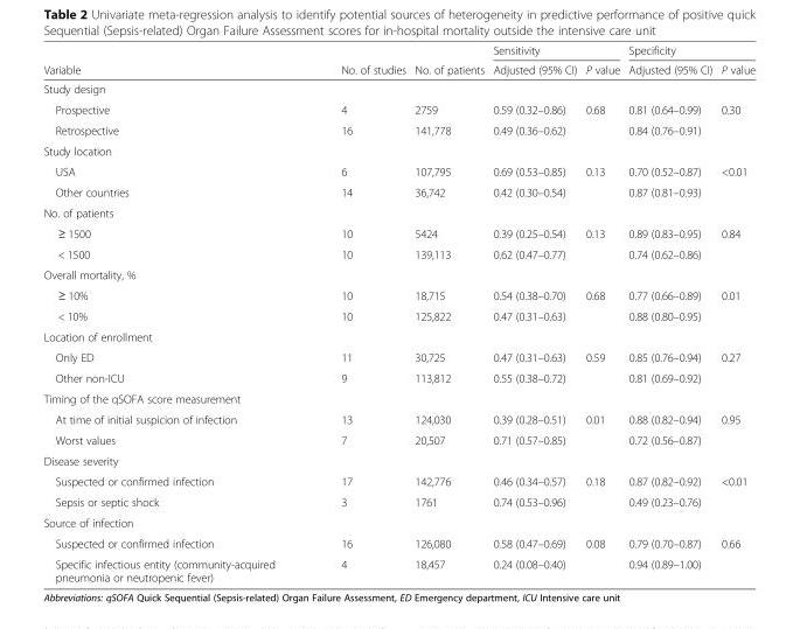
<table><thead><tr><td rowspan="2">Variable</td><td rowspan="2">No. of studies</td><td rowspan="2">No. of patients</td><td colspan="2">Sensitivity</td><td colspan="2">Specificity</td></tr><tr><td>Adjusted (95% CI)</td><td>P value</td><td>Adjusted (95% CI)</td><td>P value</td></tr></thead><tbody><tr><td colspan="7">Study design</td></tr><tr><td>Prospective</td><td>4</td><td>2759</td><td>0.59 (0.32–0.86)</td><td rowspan="2">0.68</td><td>0.81 (0.64–0.99)</td><td rowspan="2">0.30</td></tr><tr><td>Retrospective</td><td>16</td><td>141,778</td><td>0.49 (0.36–0.62)</td><td>0.84 (0.76–0.91)</td></tr><tr><td colspan="7">Study location</td></tr><tr><td>USA</td><td>6</td><td>107,795</td><td>0.69 (0.53–0.85)</td><td rowspan="2">0.13</td><td>0.70 (0.52–0.87)</td><td rowspan="2">&lt;0.01</td></tr><tr><td>Other countries</td><td>14</td><td>36,742</td><td>0.42 (0.30–0.54)</td><td>0.87 (0.81–0.93)</td></tr><tr><td colspan="7">No. of patients</td></tr><tr><td>≥ 1500</td><td>10</td><td>5424</td><td>0.39 (0.25–0.54)</td><td rowspan="2">0.13</td><td>0.89 (0.83–0.95)</td><td rowspan="2">0.84</td></tr><tr><td>&lt; 1500</td><td>10</td><td>139,113</td><td>0.62 (0.47–0.77)</td><td>0.74 (0.62–0.86)</td></tr><tr><td colspan="7">Overall mortality, %</td></tr><tr><td>≥ 10%</td><td>10</td><td>18,715</td><td>0.54 (0.38–0.70)</td><td rowspan="2">0.68</td><td>0.77 (0.66–0.89)</td><td rowspan="2">0.01</td></tr><tr><td>&lt; 10%</td><td>10</td><td>125,822</td><td>0.47 (0.31–0.63)</td><td>0.88 (0.80–0.95)</td></tr><tr><td colspan="7">Location of enrollment</td></tr><tr><td>Only ED</td><td>11</td><td>30,725</td><td>0.47 (0.31–0.63)</td><td rowspan="2">0.59</td><td>0.85 (0.76–0.94)</td><td rowspan="2">0.27</td></tr><tr><td>Other non-ICU</td><td>9</td><td>113,812</td><td>0.55 (0.38–0.72)</td><td>0.81 (0.69–0.92)</td></tr><tr><td colspan="7">Timing of the qSOFA score measurement</td></tr><tr><td>At time of initial suspicion of infection</td><td>13</td><td>124,030</td><td>0.39 (0.28–0.51)</td><td rowspan="2">0.01</td><td>0.88 (0.82–0.94)</td><td rowspan="2">0.95</td></tr><tr><td>Worst values</td><td>7</td><td>20,507</td><td>0.71 (0.57–0.85)</td><td>0.72 (0.56–0.87)</td></tr><tr><td colspan="7">Disease severity</td></tr><tr><td>Suspected or confirmed infection</td><td>17</td><td>142,776</td><td>0.46 (0.34–0.57)</td><td rowspan="2">0.18</td><td>0.87 (0.82–0.92)</td><td rowspan="2">&lt;0.01</td></tr><tr><td>Sepsis or septic shock</td><td>3</td><td>1761</td><td>0.74 (0.53–0.96)</td><td>0.49 (0.23–0.76)</td></tr><tr><td colspan="7">Source of infection</td></tr><tr><td>Suspected or confirmed infection</td><td>16</td><td>126,080</td><td>0.58 (0.47–0.69)</td><td rowspan="2">0.08</td><td>0.79 (0.70–0.87)</td><td rowspan="2">0.66</td></tr><tr><td>Specific infectious entity (community-acquired pneumonia or neutropenic fever)</td><td>4</td><td>18,457</td><td>0.24 (0.08–0.40)</td><td>0.94 (0.89–1.00)</td></tr></tbody></table>